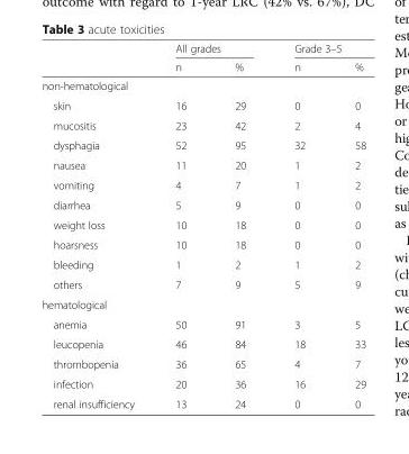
<table><thead><tr><td rowspan="2"></td><td colspan="2">All grades</td><td colspan="2">Grade 3–5</td></tr><tr><td>n</td><td>%</td><td>n</td><td>%</td></tr></thead><tbody><tr><td colspan="5">non-hematological</td></tr><tr><td>skin</td><td>16</td><td>29</td><td>0</td><td>0</td></tr><tr><td>mucositis</td><td>23</td><td>42</td><td>2</td><td>4</td></tr><tr><td>dysphagia</td><td>52</td><td>95</td><td>32</td><td>58</td></tr><tr><td>nausea</td><td>11</td><td>20</td><td>1</td><td>2</td></tr><tr><td>vomiting</td><td>4</td><td>7</td><td>1</td><td>2</td></tr><tr><td>diarrhea</td><td>5</td><td>9</td><td>0</td><td>0</td></tr><tr><td>weight loss</td><td>10</td><td>18</td><td>0</td><td>0</td></tr><tr><td>hoarsness</td><td>10</td><td>18</td><td>0</td><td>0</td></tr><tr><td>bleeding</td><td>1</td><td>2</td><td>1</td><td>2</td></tr><tr><td>others</td><td>7</td><td>9</td><td>5</td><td>9</td></tr><tr><td colspan="5">hematological</td></tr><tr><td>anemia</td><td>50</td><td>91</td><td>3</td><td>5</td></tr><tr><td>leucopenia</td><td>46</td><td>84</td><td>18</td><td>33</td></tr><tr><td>thrombopenia</td><td>36</td><td>65</td><td>4</td><td>7</td></tr><tr><td>infection</td><td>20</td><td>36</td><td>16</td><td>29</td></tr><tr><td>renal insufficiency</td><td>13</td><td>24</td><td>0</td><td>0</td></tr></tbody></table>